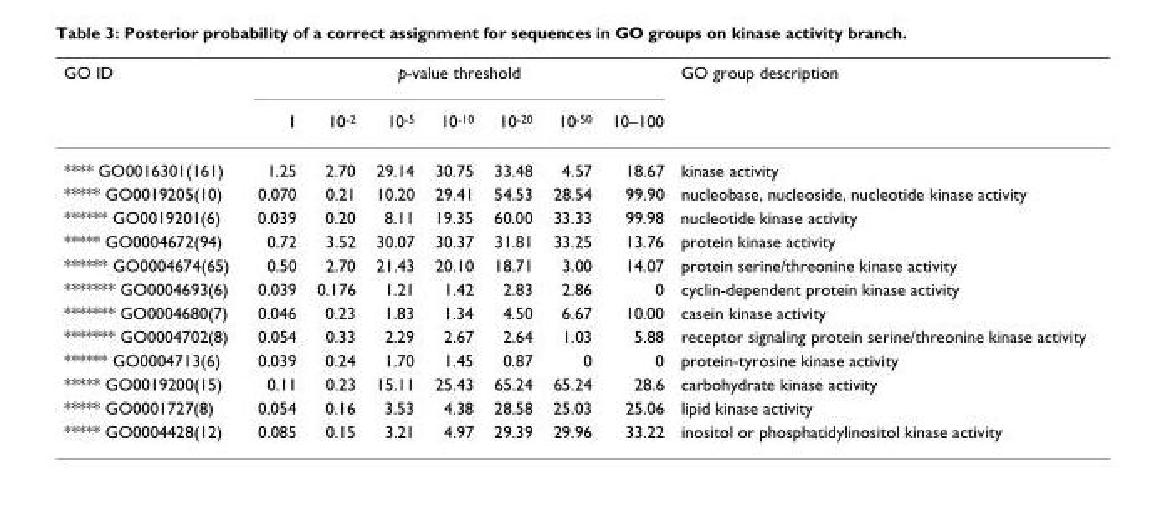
<table><thead><tr><td rowspan="2">GO ID</td><td colspan="7">p-value threshold</td><td rowspan="2">GO group description</td></tr><tr><td>1</td><td>10-2</td><td>10-5</td><td>10-10</td><td>10-20</td><td>10-50</td><td>10–100</td></tr></thead><tbody><tr><td>**** GO0016301(161)</td><td>1.25</td><td>2.70</td><td>29.14</td><td>30.75</td><td>33.48</td><td>4.57</td><td>18.67</td><td>kinase activity</td></tr><tr><td>***** GO0019205(10)</td><td>0.070</td><td>0.21</td><td>10.20</td><td>29.41</td><td>54.53</td><td>28.54</td><td>99.90</td><td>nucleobase, nucleoside, nucleotide kinase activity</td></tr><tr><td>****** GO0019201(6)</td><td>0.039</td><td>0.20</td><td>8.11</td><td>19.35</td><td>60.00</td><td>33.33</td><td>99.98</td><td>nucleotide kinase activity</td></tr><tr><td>***** GO0004672(94)</td><td>0.72</td><td>3.52</td><td>30.07</td><td>30.37</td><td>31.81</td><td>33.25</td><td>13.76</td><td>protein kinase activity</td></tr><tr><td>****** GO0004674(65)</td><td>0.50</td><td>2.70</td><td>21.43</td><td>20.10</td><td>18.71</td><td>3.00</td><td>14.07</td><td>protein serine/threonine kinase activity</td></tr><tr><td>******* GO0004693(6)</td><td>0.039</td><td>0.176</td><td>1.21</td><td>1.42</td><td>2.83</td><td>2.86</td><td>0</td><td>cyclin-dependent protein kinase activity</td></tr><tr><td>******* GO0004680(7)</td><td>0.046</td><td>0.23</td><td>1.83</td><td>1.34</td><td>4.50</td><td>6.67</td><td>10.00</td><td>casein kinase activity</td></tr><tr><td>******* GO0004702(8)</td><td>0.054</td><td>0.33</td><td>2.29</td><td>2.67</td><td>2.64</td><td>1.03</td><td>5.88</td><td>receptor signaling protein serine/threonine kinase activity</td></tr><tr><td>****** GO0004713(6)</td><td>0.039</td><td>0.24</td><td>1.70</td><td>1.45</td><td>0.87</td><td>0</td><td>0</td><td>protein-tyrosine kinase activity</td></tr><tr><td>***** GO0019200(15)</td><td>0.11</td><td>0.23</td><td>15.11</td><td>25.43</td><td>65.24</td><td>65.24</td><td>28.6</td><td>carbohydrate kinase activity</td></tr><tr><td>***** GO0001727(8)</td><td>0.054</td><td>0.16</td><td>3.53</td><td>4.38</td><td>28.58</td><td>25.03</td><td>25.06</td><td>lipid kinase activity</td></tr><tr><td>***** GO0004428(12)</td><td>0.085</td><td>0.15</td><td>3.21</td><td>4.97</td><td>29.39</td><td>29.96</td><td>33.22</td><td>inositol or phosphatidylinositol kinase activity</td></tr></tbody></table>